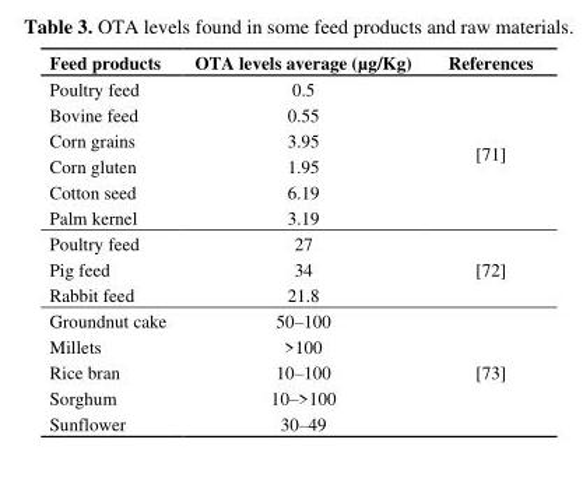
<table><thead><tr><td>Feed products</td><td>OTA levels average (µg/Kg)</td><td>References</td></tr></thead><tbody><tr><td>Poultry feed</td><td>0.5</td><td rowspan="6">[71]</td></tr><tr><td>Bovine feed</td><td>0.55</td></tr><tr><td>Corn grains</td><td>3.95</td></tr><tr><td>Corn gluten</td><td>1.95</td></tr><tr><td>Cotton seed</td><td>6.19</td></tr><tr><td>Palm kernel</td><td>3.19</td></tr><tr><td>Poultry feed</td><td>27</td><td rowspan="3">[72]</td></tr><tr><td>Pig feed</td><td>34</td></tr><tr><td>Rabbit feed</td><td>21.8</td></tr><tr><td>Groundnut cake</td><td>50–100</td><td rowspan="5">[73]</td></tr><tr><td>Millets</td><td>&gt;100</td></tr><tr><td>Rice bran</td><td>10–100</td></tr><tr><td>Sorghum</td><td>10–&gt;100</td></tr><tr><td>Sunflower</td><td>30–49</td></tr></tbody></table>